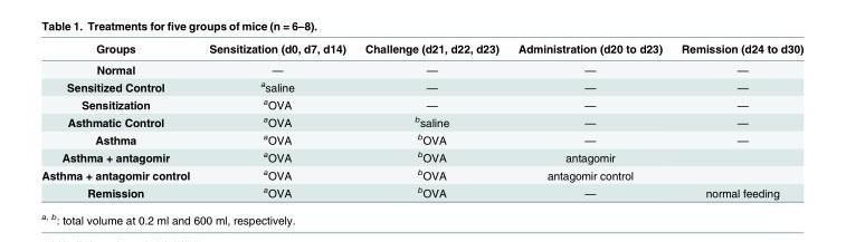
<table><thead><tr><td>Groups</td><td>Sensitization (d0, d7, d14)</td><td>Challenge (d21, d22, d23)</td><td>Administration (d20 to d23)</td><td>Remission (d24 to d30)</td></tr></thead><tbody><tr><td>Normal</td><td>—</td><td>—</td><td>—</td><td>—</td></tr><tr><td>Sensitized Control</td><td><sup>a</sup>saline</td><td>—</td><td>—</td><td>—</td></tr><tr><td>Sensitization</td><td><sup>a</sup>OVA</td><td>—</td><td>—</td><td>—</td></tr><tr><td>Asthmatic Control</td><td><sup>a</sup>OVA</td><td><sup>b</sup>saline</td><td>—</td><td>—</td></tr><tr><td>Asthma</td><td><sup>a</sup>OVA</td><td><sup>b</sup>OVA</td><td>—</td><td>—</td></tr><tr><td>Asthma + antagomir</td><td><sup>a</sup>OVA</td><td><sup>b</sup>OVA</td><td>antagomir</td><td></td></tr><tr><td>Asthma + antagomir control</td><td><sup>a</sup>OVA</td><td><sup>b</sup>OVA</td><td>antagomir control</td><td></td></tr><tr><td>Remission</td><td><sup>a</sup>OVA</td><td><sup>b</sup>OVA</td><td>—</td><td>normal feeding</td></tr></tbody></table>